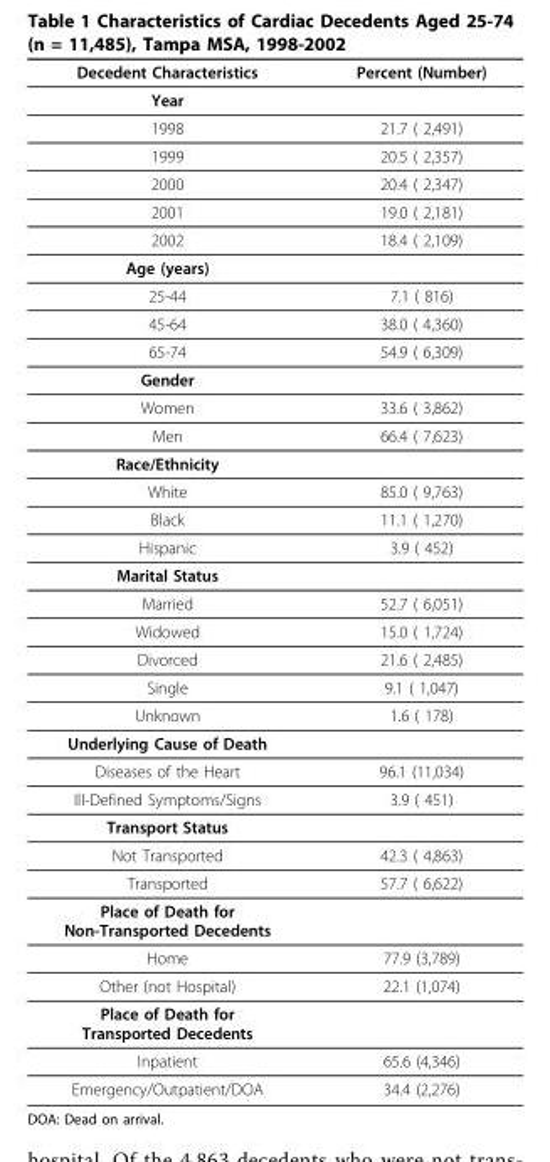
<table><thead><tr><td>Decedent Characteristics</td><td>Percent (Number)</td></tr></thead><tbody><tr><td colspan="2">Year</td></tr><tr><td>1998</td><td>21.7 ( 2,491)</td></tr><tr><td>1999</td><td>20.5 ( 2,357)</td></tr><tr><td>2000</td><td>20.4 ( 2,347)</td></tr><tr><td>2001</td><td>19.0 ( 2,181)</td></tr><tr><td>2002</td><td>18.4 ( 2,109)</td></tr><tr><td colspan="2">Age (years)</td></tr><tr><td>25-44</td><td>7.1 ( 816)</td></tr><tr><td>45-64</td><td>38.0 ( 4,360)</td></tr><tr><td>65-74</td><td>54.9 ( 6,309)</td></tr><tr><td colspan="2">Gender</td></tr><tr><td>Women</td><td>33.6 ( 3,862)</td></tr><tr><td>Men</td><td>66.4 ( 7,623)</td></tr><tr><td colspan="2">Race/Ethnicity</td></tr><tr><td>White</td><td>85.0 ( 9,763)</td></tr><tr><td>Black</td><td>11.1 ( 1,270)</td></tr><tr><td>Hispanic</td><td>3.9 ( 452)</td></tr><tr><td colspan="2">Marital Status</td></tr><tr><td>Married</td><td>52.7 ( 6,051)</td></tr><tr><td>Widowed</td><td>15.0 ( 1,724)</td></tr><tr><td>Divorced</td><td>21.6 ( 2,485)</td></tr><tr><td>Single</td><td>9.1 ( 1,047)</td></tr><tr><td>Unknown</td><td>1.6 ( 178)</td></tr><tr><td colspan="2">Underlying Cause of Death</td></tr><tr><td>Diseases of the Heart</td><td>96.1 (11,034)</td></tr><tr><td>Ill-Defined Symptoms/Signs</td><td>3.9 ( 451)</td></tr><tr><td colspan="2">Transport Status</td></tr><tr><td>Not Transported</td><td>42.3 ( 4,863)</td></tr><tr><td>Transported</td><td>57.7 ( 6,622)</td></tr><tr><td colspan="2">Place of Death for Non-Transported Decedents</td></tr><tr><td>Home</td><td>77.9 (3,789)</td></tr><tr><td>Other (not Hospital)</td><td>22.1 (1,074)</td></tr><tr><td colspan="2">Place of Death for Transported Decedents</td></tr><tr><td>Inpatient</td><td>65.6 (4,346)</td></tr><tr><td>Emergency/Outpatient/DOA</td><td>34.4 (2,276)</td></tr></tbody></table>